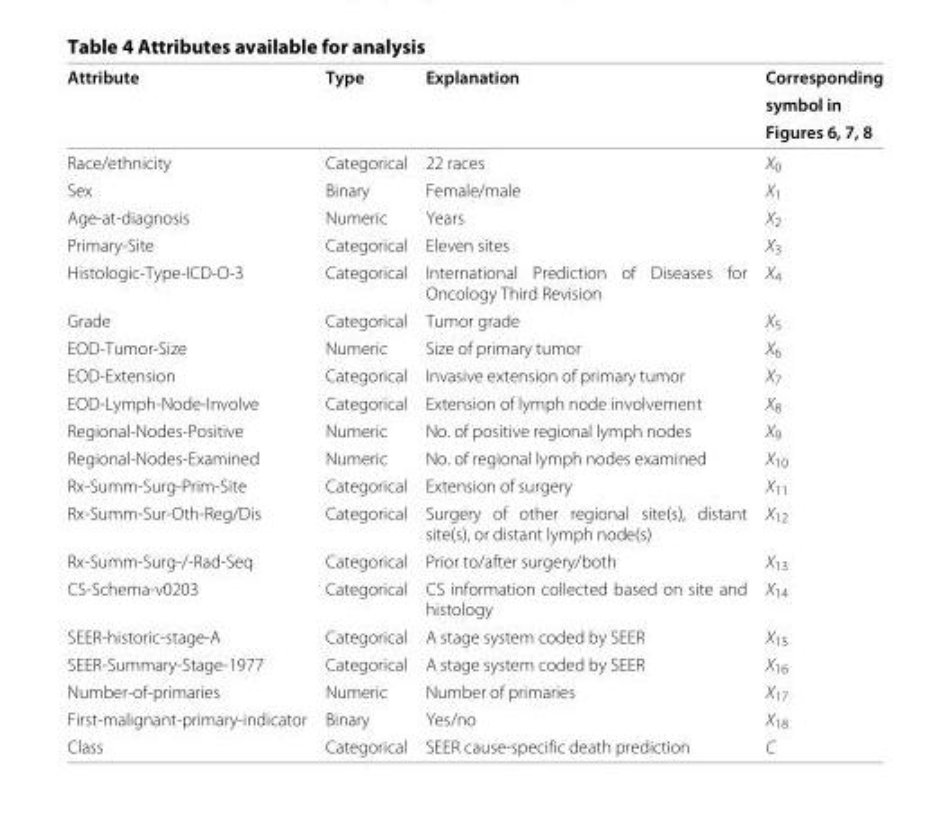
<table><thead><tr><td rowspan="3">Attribute</td><td rowspan="3">Type</td><td rowspan="3">Explanation</td><td rowspan="3">Corresponding symbol in Figures 6, 7, 8</td></tr><tr></tr><tr></tr></thead><tbody><tr><td>Race/ethnicity</td><td>Categorical</td><td>22 races</td><td>X<sub>0</sub></td></tr><tr><td>Sex</td><td>Binary</td><td>Female/male</td><td>X<sub>1</sub></td></tr><tr><td>Age-at-diagnosis</td><td>Numeric</td><td>Years</td><td>X<sub>2</sub></td></tr><tr><td>Primary-Site</td><td>Categorical</td><td>Eleven sites</td><td>X<sub>3</sub></td></tr><tr><td>Histologic-Type-ICD-O-3</td><td>Categorical</td><td>International Prediction of Diseases for Oncology Third Revision</td><td>X<sub>4</sub></td></tr><tr><td>Grade</td><td>Categorical</td><td>Tumor grade</td><td>X<sub>5</sub></td></tr><tr><td>EOD-Tumor-Size</td><td>Numeric</td><td>Size of primary tumor</td><td>X<sub>6</sub></td></tr><tr><td>EOD-Extension</td><td>Categorical</td><td>Invasive extension of primary tumor</td><td>X<sub>7</sub></td></tr><tr><td>EOD-Lymph-Node-Involve</td><td>Categorical</td><td>Extension of lymph node involvement</td><td>X<sub>8</sub></td></tr><tr><td>Regional-Nodes-Positive</td><td>Numeric</td><td>No. of positive regional lymph nodes</td><td>X<sub>9</sub></td></tr><tr><td>Regional-Nodes-Examined</td><td>Numeric</td><td>No. of regional lymph nodes examined</td><td>X<sub>10</sub></td></tr><tr><td>Rx-Summ-Surg-Prim-Site</td><td>Categorical</td><td>Extension of surgery</td><td>X<sub>11</sub></td></tr><tr><td>Rx-Summ-Sur-Oth-Reg/Dis</td><td>Categorical</td><td>Surgery of other regional site(s), distant site(s), or distant lymph node(s)</td><td>X<sub>12</sub></td></tr><tr><td>Rx-Summ-Surg-/-Rad-Seq</td><td>Categorical</td><td>Prior to/after surgery/both</td><td>X<sub>13</sub></td></tr><tr><td>CS-Schema-v0203</td><td>Categorical</td><td>CS information collected based on site and histology</td><td>X<sub>14</sub></td></tr><tr><td>SEER-historic-stage-A</td><td>Categorical</td><td>A stage system coded by SEER</td><td>X<sub>15</sub></td></tr><tr><td>SEER-Summary-Stage-1977</td><td>Categorical</td><td>A stage system coded by SEER</td><td>X<sub>16</sub></td></tr><tr><td>Number-of-primaries</td><td>Numeric</td><td>Number of primaries</td><td>X<sub>17</sub></td></tr><tr><td>First-malignant-primary-indicator</td><td>Binary</td><td>Yes/no</td><td>X<sub>18</sub></td></tr><tr><td>Class</td><td>Categorical</td><td>SEER cause-specific death prediction</td><td>C</td></tr></tbody></table>